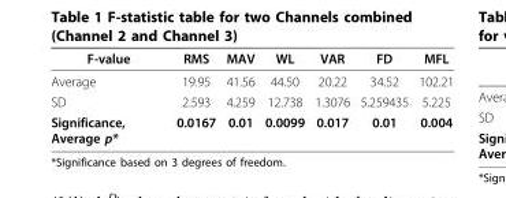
<table><thead><tr><td>F-value</td><td>RMS</td><td>MAV</td><td>WL</td><td>VAR</td><td>FD</td><td>MFL</td></tr></thead><tbody><tr><td>Average</td><td>19.95</td><td>41.56</td><td>44.50</td><td>20.22</td><td>34.52</td><td>102.21</td></tr><tr><td>SD</td><td>2.593</td><td>4.259</td><td>12.738</td><td>1.3076</td><td>5.259435</td><td>5.225</td></tr><tr><td>Significance, Average p*</td><td>0.0167</td><td>0.01</td><td>0.0099</td><td>0.017</td><td>0.01</td><td>0.004</td></tr></tbody></table>